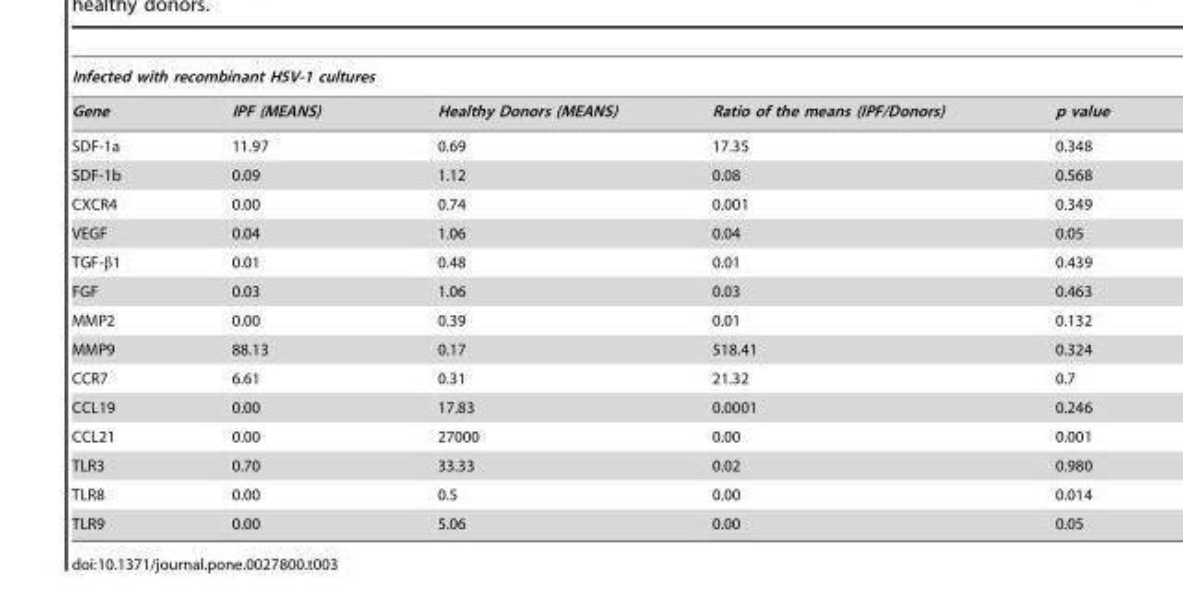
<table><thead><tr><td colspan="5">Infected with recombinant HSV-1 cultures</td></tr><tr><td>Gene</td><td>IPF (MEANS)</td><td>Healthy Donors (MEANS)</td><td>Ratio of the means (IPF/Donors)</td><td>p value</td></tr></thead><tbody><tr><td>SDF-1a</td><td>11.97</td><td>0.69</td><td>17.35</td><td>0.348</td></tr><tr><td>SDF-1b</td><td>0.09</td><td>1.12</td><td>0.08</td><td>0.568</td></tr><tr><td>CXCR4</td><td>0.00</td><td>0.74</td><td>0.001</td><td>0.349</td></tr><tr><td>VEGF</td><td>0.04</td><td>1.06</td><td>0.04</td><td>0.05</td></tr><tr><td>TGF-β1</td><td>0.01</td><td>0.48</td><td>0.01</td><td>0.439</td></tr><tr><td>FGF</td><td>0.03</td><td>1.06</td><td>0.03</td><td>0.463</td></tr><tr><td>MMP2</td><td>0.00</td><td>0.39</td><td>0.01</td><td>0.132</td></tr><tr><td>MMP9</td><td>88.13</td><td>0.17</td><td>518.41</td><td>0.324</td></tr><tr><td>CCR7</td><td>6.61</td><td>0.31</td><td>21.32</td><td>0.7</td></tr><tr><td>CCL19</td><td>0.00</td><td>17.83</td><td>0.0001</td><td>0.246</td></tr><tr><td>CCL21</td><td>0.00</td><td>27000</td><td>0.00</td><td>0.001</td></tr><tr><td>TLR3</td><td>0.70</td><td>33.33</td><td>0.02</td><td>0.980</td></tr><tr><td>TLR8</td><td>0.00</td><td>0.5</td><td>0.00</td><td>0.014</td></tr><tr><td>TLR9</td><td>0.00</td><td>5.06</td><td>0.00</td><td>0.05</td></tr></tbody></table>